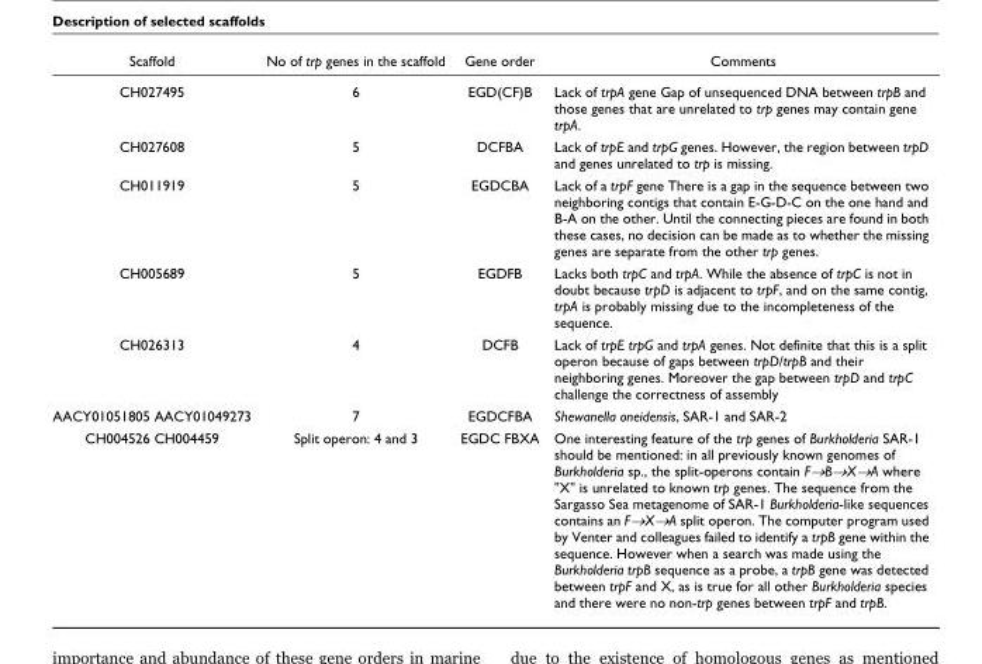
<table><thead><tr><td>Scaffold</td><td>No of trp genes in the scaffold</td><td>Gene order</td><td>Comments</td></tr></thead><tbody><tr><td>CH027495</td><td>6</td><td>EGD(CF)B</td><td>Lack of trpA gene Gap of unsequenced DNA between trpB and those genes that are unrelated to trp genes may contain gene trpA.</td></tr><tr><td>CH027608</td><td>5</td><td>DCFBA</td><td>Lack of trpE and trpG genes. However, the region between trpD and genes unrelated to trp is missing.</td></tr><tr><td>CH011919</td><td>5</td><td>EGDCBA</td><td>Lack of a trpF gene There is a gap in the sequence between two neighboring contigs that contain E-G-D-C on the one hand and B-A on the other. Until the connecting pieces are found in both these cases, no decision can be made as to whether the missing genes are separate from the other trp genes.</td></tr><tr><td>CH005689</td><td>5</td><td>EGDFB</td><td>Lacks both trpC and trpA. While the absence of trpC is not in doubt because trpD is adjacent to trpF, and on the same contig, trpA is probably missing due to the incompleteness of the sequence.</td></tr><tr><td>CH026313</td><td>4</td><td>DCFB</td><td>Lack of trpE trpG and trpA genes. Not definite that this is a split operon because of gaps between trpD/trpB and their neighboring genes. Moreover the gap between trpD and trpC challenge the correctness of assembly</td></tr><tr><td>AACY01051805 AACY01049273</td><td>7</td><td>EGDCFBA</td><td>Shewanella oneidensis, SAR-1 and SAR-2</td></tr><tr><td>CH004526 CH004459</td><td>Split operon: 4 and 3</td><td>EGDC FBXA</td><td>One interesting feature of the trp genes of Burkholderia SAR-1 should be mentioned: in all previously known genomes of Burkholderia sp., the split-operons contain F→B→X→A where &quot;X&quot; is unrelated to known trp genes. The sequence from the Sargasso Sea metagenome of SAR-1 Burkholderia-like sequences contains an F→X→A split operon. The computer program used by Venter and colleagues failed to identify a trpB gene within the sequence. However when a search was made using the Burkholderia trpB sequence as a probe, a trpB gene was detected between trpF and X, as is true for all other Burkholderia species and there were no non-trp genes between trpF and trpB.</td></tr></tbody></table>